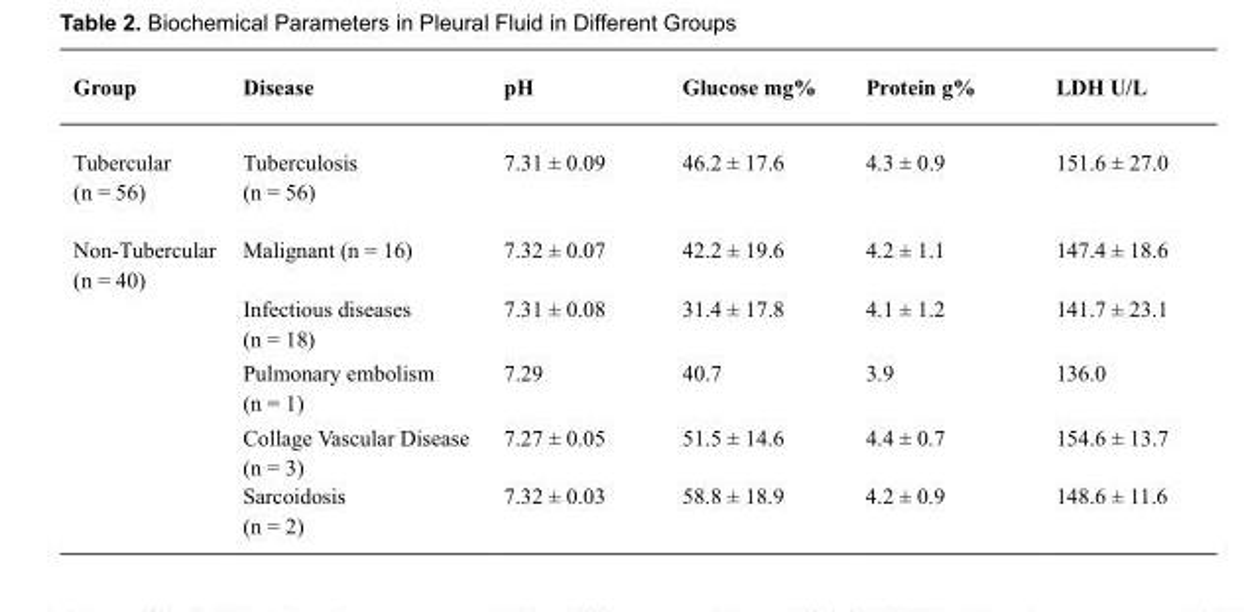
<table><thead><tr><td>Group</td><td>Disease</td><td>pH</td><td>Glucose mg%</td><td>Protein g%</td><td>LDH U/L</td></tr></thead><tbody><tr><td>Tubercular (n = 56)</td><td>Tuberculosis (n = 56)</td><td>7.31 ± 0.09</td><td>46.2 ± 17.6</td><td>4.3 ± 0.9</td><td>151.6 ± 27.0</td></tr><tr><td rowspan="5">Non-Tubercular (n = 40)</td><td>Malignant (n = 16)</td><td>7.32 ± 0.07</td><td>42.2 ± 19.6</td><td>4.2 ± 1.1</td><td>147.4 ± 18.6</td></tr><tr><td>Infectious diseases (n = 18)</td><td>7.31 ± 0.08</td><td>31.4 ± 17.8</td><td>4.1 ± 1.2</td><td>141.7 ± 23.1</td></tr><tr><td>Pulmonary embolism (n = 1)</td><td>7.29</td><td>40.7</td><td>3.9</td><td>136.0</td></tr><tr><td>Collage Vascular Disease (n = 3)</td><td>7.27 ± 0.05</td><td>51.5 ± 14.6</td><td>4.4 ± 0.7</td><td>154.6 ± 13.7</td></tr><tr><td>Sarcoidosis (n = 2)</td><td>7.32 ± 0.03</td><td>58.8 ± 18.9</td><td>4.2 ± 0.9</td><td>148.6 ± 11.6</td></tr></tbody></table>